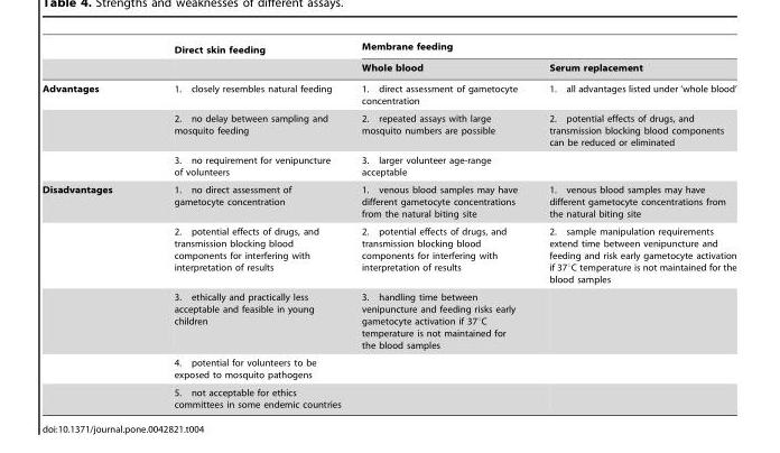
<table><thead><tr><td rowspan="2"></td><td rowspan="2">Direct skin feeding</td><td colspan="2">Membrane feeding</td></tr><tr><td>Whole blood</td><td>Serum replacement</td></tr></thead><tbody><tr><td rowspan="3">Advantages</td><td>1. closely resembles natural feeding</td><td>1. direct assessment of gametocyte concentration</td><td>1. all advantages listed under ‘whole blood’</td></tr><tr><td>2. no delay between sampling and mosquito feeding</td><td>2. repeated assays with large mosquito numbers are possible</td><td>2. potential effects of drugs, and transmission blocking blood components can be reduced or eliminated</td></tr><tr><td>3. no requirement for venipuncture of volunteers</td><td>3. larger volunteer age-range acceptable</td><td></td></tr><tr><td rowspan="5">Disadvantages</td><td>1. no direct assessment of gametocyte concentration</td><td>1. venous blood samples may have different gametocyte concentrations from the natural biting site</td><td>1. venous blood samples may have different gametocyte concentrations from the natural biting site</td></tr><tr><td>2. potential effects of drugs, and transmission blocking blood components for interfering with interpretation of results</td><td>2. potential effects of drugs, and transmission blocking blood components for interfering with interpretation of results</td><td>2. sample manipulation requirements extend time between venipuncture and feeding and risk early gametocyte activation if 37°C temperature is not maintained for the blood samples</td></tr><tr><td>3. ethically and practically less acceptable and feasible in young children</td><td>3. handling time between venipuncture and feeding risks early gametocyte activation if 37°C temperature is not maintained for the blood samples</td><td></td></tr><tr><td>4. potential for volunteers to be exposed to mosquito pathogens</td><td></td><td></td></tr><tr><td>5. not acceptable for ethics committees in some endemic countries</td><td></td><td></td></tr></tbody></table>